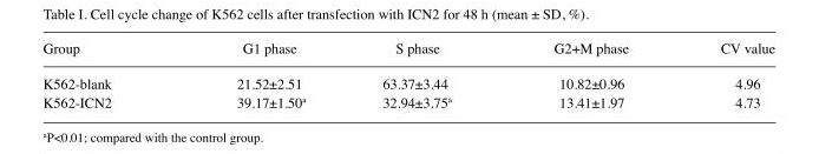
<table><thead><tr><td>Group</td><td>G1 phase</td><td>S phase</td><td>G2+M phase</td><td>CV value</td></tr></thead><tbody><tr><td>K562-blank</td><td>21.52±2.51</td><td>63.37±3.44</td><td>10.82±0.96</td><td>4.96</td></tr><tr><td>K562-ICN2</td><td>39.17±1.50<sup>a</sup></td><td>32.94±3.75<sup>a</sup></td><td>13.41±1.97</td><td>4.73</td></tr></tbody></table>